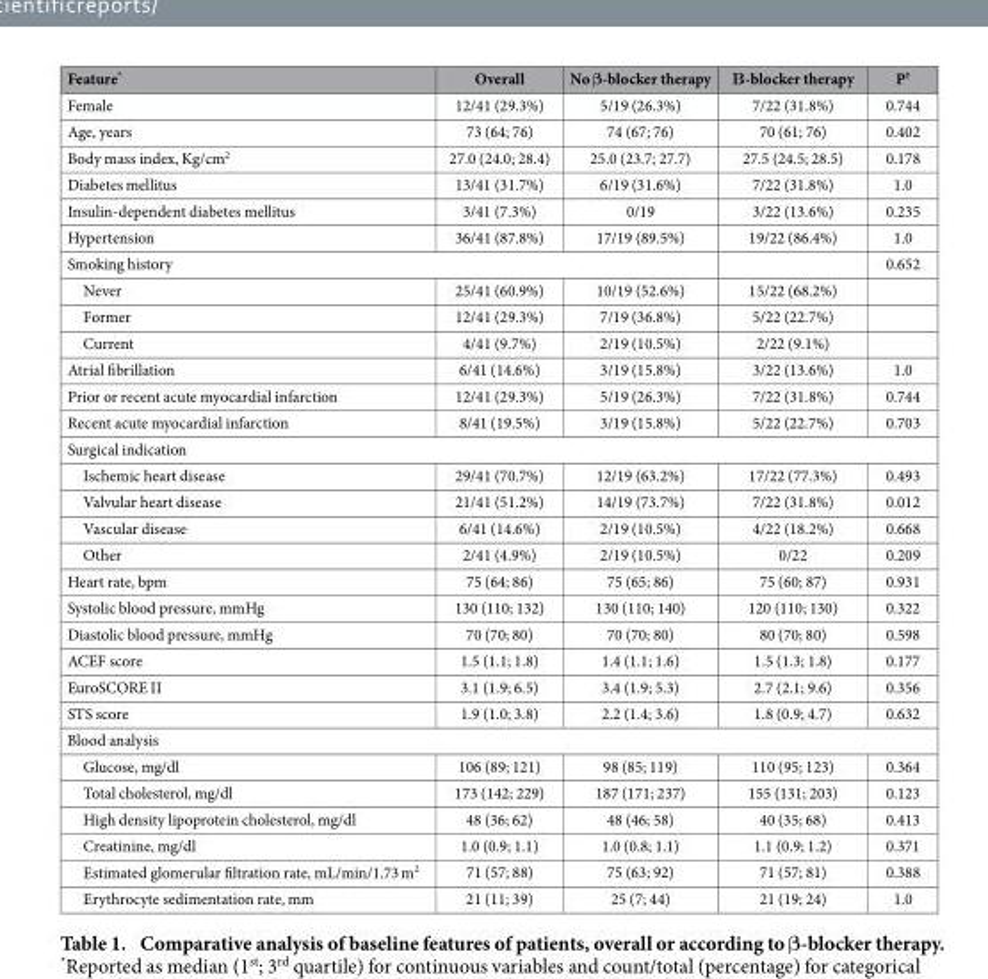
<table><thead><tr><td>Feature*</td><td>Overall</td><td>No β-blocker therapy</td><td>Β-blocker therapy</td><td>P†</td></tr></thead><tbody><tr><td>Female</td><td>12/41 (29.3%)</td><td>5/19 (26.3%)</td><td>7/22 (31.8%)</td><td>0.744</td></tr><tr><td>Age, years</td><td>73 (64; 76)</td><td>74 (67; 76)</td><td>70 (61; 76)</td><td>0.402</td></tr><tr><td>Body mass index, Kg/cm<sup>2</sup></td><td>27.0 (24.0; 28.4)</td><td>25.0 (23.7; 27.7)</td><td>27.5 (24.5; 28.5)</td><td>0.178</td></tr><tr><td>Diabetes mellitus</td><td>13/41 (31.7%)</td><td>6/19 (31.6%)</td><td>7/22 (31.8%)</td><td>1.0</td></tr><tr><td>Insulin-dependent diabetes mellitus</td><td>3/41 (7.3%)</td><td>0/19</td><td>3/22 (13.6%)</td><td>0.235</td></tr><tr><td>Hypertension</td><td>36/41 (87.8%)</td><td>17/19 (89.5%)</td><td>19/22 (86.4%)</td><td>1.0</td></tr><tr><td colspan="3">Smoking history</td><td></td><td>0.652</td></tr><tr><td>Never</td><td>25/41 (60.9%)</td><td>10/19 (52.6%)</td><td>15/22 (68.2%)</td><td></td></tr><tr><td>Former</td><td>12/41 (29.3%)</td><td>7/19 (36.8%)</td><td>5/22 (22.7%)</td><td></td></tr><tr><td>Current</td><td>4/41 (9.7%)</td><td>2/19 (10.5%)</td><td>2/22 (9.1%)</td><td></td></tr><tr><td>Atrial fibrillation</td><td>6/41 (14.6%)</td><td>3/19 (15.8%)</td><td>3/22 (13.6%)</td><td>1.0</td></tr><tr><td>Prior or recent acute myocardial infarction</td><td>12/41 (29.3%)</td><td>5/19 (26.3%)</td><td>7/22 (31.8%)</td><td>0.744</td></tr><tr><td>Recent acute myocardial infarction</td><td>8/41 (19.5%)</td><td>3/19 (15.8%)</td><td>5/22 (22.7%)</td><td>0.703</td></tr><tr><td colspan="5">Surgical indication</td></tr><tr><td>Ischemic heart disease</td><td>29/41 (70.7%)</td><td>12/19 (63.2%)</td><td>17/22 (77.3%)</td><td>0.493</td></tr><tr><td>Valvular heart disease</td><td>21/41 (51.2%)</td><td>14/19 (73.7%)</td><td>7/22 (31.8%)</td><td>0.012</td></tr><tr><td>Vascular disease</td><td>6/41 (14.6%)</td><td>2/19 (10.5%)</td><td>4/22 (18.2%)</td><td>0.668</td></tr><tr><td>Other</td><td>2/41 (4.9%)</td><td>2/19 (10.5%)</td><td>0/22</td><td>0.209</td></tr><tr><td>Heart rate, bpm</td><td>75 (64; 86)</td><td>75 (65; 86)</td><td>75 (60; 87)</td><td>0.931</td></tr><tr><td>Systolic blood pressure, mmHg</td><td>130 (110; 132)</td><td>130 (110; 140)</td><td>120 (110; 130)</td><td>0.322</td></tr><tr><td>Diastolic blood pressure, mmHg</td><td>70 (70; 80)</td><td>70 (70; 80)</td><td>80 (70; 80)</td><td>0.598</td></tr><tr><td>ACEF score</td><td>1.5 (1.1; 1.8)</td><td>1.4 (1.1; 1.6)</td><td>1.5 (1.3; 1.8)</td><td>0.177</td></tr><tr><td>EuroSCORE II</td><td>3.1 (1.9; 6.5)</td><td>3.4 (1.9; 5.3)</td><td>2.7 (2.1; 9.6)</td><td>0.356</td></tr><tr><td>STS score</td><td>1.9 (1.0; 3.8)</td><td>2.2 (1.4; 3.6)</td><td>1.8 (0.9; 4.7)</td><td>0.632</td></tr><tr><td colspan="5">Blood analysis</td></tr><tr><td>Glucose, mg/dl</td><td>106 (89; 121)</td><td>98 (85; 119)</td><td>110 (95; 123)</td><td>0.364</td></tr><tr><td>Total cholesterol, mg/dl</td><td>173 (142; 229)</td><td>187 (171; 237)</td><td>155 (131; 203)</td><td>0.123</td></tr><tr><td>High density lipoprotein cholesterol, mg/dl</td><td>48 (36; 62)</td><td>48 (46; 58)</td><td>40 (35; 68)</td><td>0.413</td></tr><tr><td>Creatinine, mg/dl</td><td>1.0 (0.9; 1.1)</td><td>1.0 (0.8; 1.1)</td><td>1.1 (0.9; 1.2)</td><td>0.371</td></tr><tr><td>Estimated glomerular filtration rate, mL/min/1.73 m<sup>2</sup></td><td>71 (57; 88)</td><td>75 (63; 92)</td><td>71 (57; 81)</td><td>0.388</td></tr><tr><td>Erythrocyte sedimentation rate, mm</td><td>21 (11; 39)</td><td>25 (7; 44)</td><td>21 (19; 24)</td><td>1.0</td></tr></tbody></table>